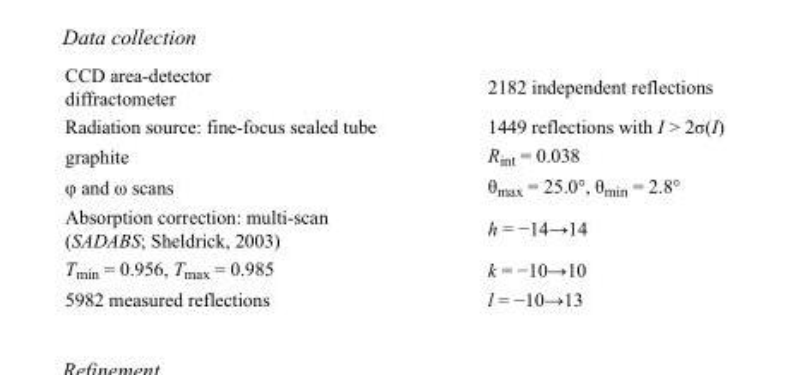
<table><tbody><tr><td>CCD area-detector diffractometer</td><td>2182 independent reflections</td></tr><tr><td>Radiation source: fine-focus sealed tube</td><td>1449 reflections with I &gt; 2σ(I)</td></tr><tr><td>graphite</td><td>R<sub>int</sub> = 0.038</td></tr><tr><td>φ and ω scans</td><td>θ<sub>max</sub> = 25.0°, θ<sub>min</sub> = 2.8°</td></tr><tr><td>Absorption correction: multi-scan (SADABS; Sheldrick, 2003)</td><td>h = −14→14</td></tr><tr><td>T<sub>min</sub> = 0.956, T<sub>max</sub> = 0.985</td><td>k = −10→10</td></tr><tr><td>5982 measured reflections</td><td>l = −10→13</td></tr></tbody></table>